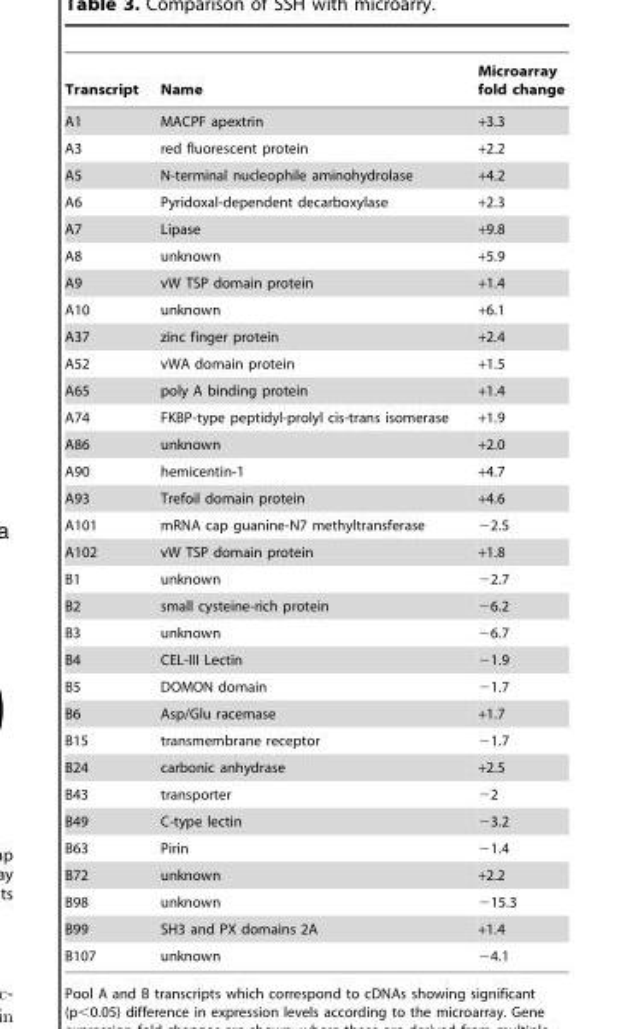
<table><thead><tr><td>Transcript</td><td>Name</td><td>Microarray fold change</td></tr></thead><tbody><tr><td>A1</td><td>MACPF apextrin</td><td>+3.3</td></tr><tr><td>A3</td><td>red fluorescent protein</td><td>+2.2</td></tr><tr><td>A5</td><td>N-terminal nucleophile aminohydrolase</td><td>+4.2</td></tr><tr><td>A6</td><td>Pyridoxal-dependent decarboxylase</td><td>+2.3</td></tr><tr><td>A7</td><td>Lipase</td><td>+9.8</td></tr><tr><td>A8</td><td>unknown</td><td>+5.9</td></tr><tr><td>A9</td><td>vW TSP domain protein</td><td>+1.4</td></tr><tr><td>A10</td><td>unknown</td><td>+6.1</td></tr><tr><td>A37</td><td>zinc finger protein</td><td>+2.4</td></tr><tr><td>A52</td><td>vWA domain protein</td><td>+1.5</td></tr><tr><td>A65</td><td>poly A binding protein</td><td>+1.4</td></tr><tr><td>A74</td><td>FKBP-type peptidyl-prolyl cis-trans isomerase</td><td>+1.9</td></tr><tr><td>A86</td><td>unknown</td><td>+2.0</td></tr><tr><td>A90</td><td>hemicentin-1</td><td>+4.7</td></tr><tr><td>A93</td><td>Trefoil domain protein</td><td>+4.6</td></tr><tr><td>A101</td><td>mRNA cap guanine-N7 methyltransferase</td><td>−2.5</td></tr><tr><td>A102</td><td>vW TSP domain protein</td><td>+1.8</td></tr><tr><td>B1</td><td>unknown</td><td>−2.7</td></tr><tr><td>B2</td><td>small cysteine-rich protein</td><td>−6.2</td></tr><tr><td>B3</td><td>unknown</td><td>−6.7</td></tr><tr><td>B4</td><td>CEL-III Lectin</td><td>−1.9</td></tr><tr><td>B5</td><td>DOMON domain</td><td>−1.7</td></tr><tr><td>B6</td><td>Asp/Glu racemase</td><td>+1.7</td></tr><tr><td>B15</td><td>transmembrane receptor</td><td>−1.7</td></tr><tr><td>B24</td><td>carbonic anhydrase</td><td>+2.5</td></tr><tr><td>B43</td><td>transporter</td><td>−2</td></tr><tr><td>B49</td><td>C-type lectin</td><td>−3.2</td></tr><tr><td>B63</td><td>Pirin</td><td>−1.4</td></tr><tr><td>B72</td><td>unknown</td><td>+2.2</td></tr><tr><td>B98</td><td>unknown</td><td>−15.3</td></tr><tr><td>B99</td><td>SH3 and PX domains 2A</td><td>+1.4</td></tr><tr><td>B107</td><td>unknown</td><td>−4.1</td></tr></tbody></table>